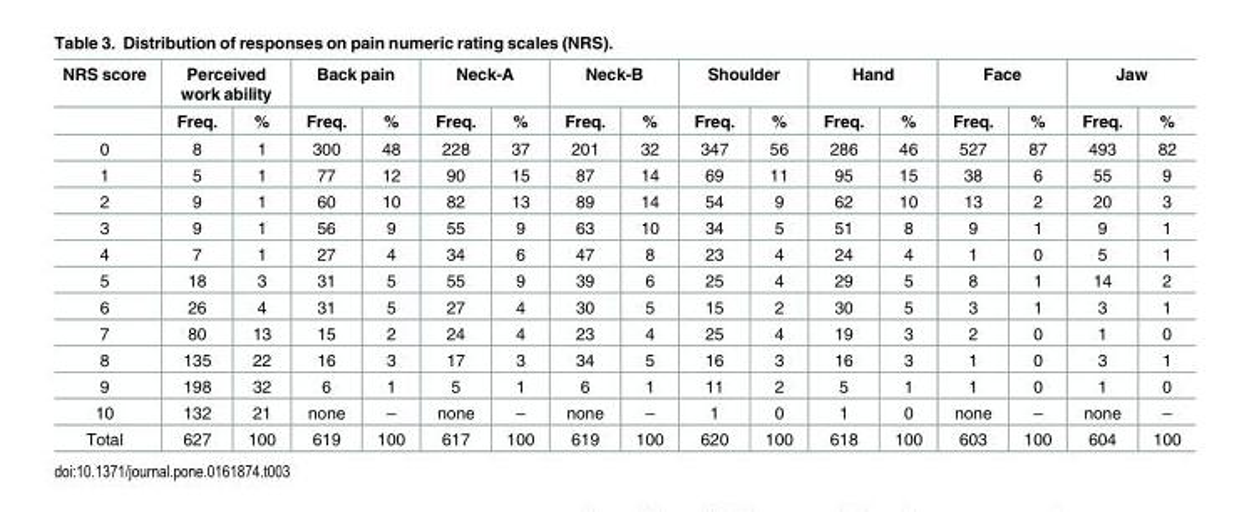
<table><thead><tr><td rowspan="2">NRS score</td><td colspan="2">Perceived work ability</td><td colspan="2">Back pain</td><td colspan="2">Neck-A</td><td colspan="2">Neck-B</td><td colspan="2">Shoulder</td><td colspan="2">Hand</td><td colspan="2">Face</td><td colspan="2">Jaw</td></tr><tr><td>Freq.</td><td>%</td><td>Freq.</td><td>%</td><td>Freq.</td><td>%</td><td>Freq.</td><td>%</td><td>Freq.</td><td>%</td><td>Freq.</td><td>%</td><td>Freq.</td><td>%</td><td>Freq.</td><td>%</td></tr></thead><tbody><tr><td>0</td><td>8</td><td>1</td><td>300</td><td>48</td><td>228</td><td>37</td><td>201</td><td>32</td><td>347</td><td>56</td><td>286</td><td>46</td><td>527</td><td>87</td><td>493</td><td>82</td></tr><tr><td>1</td><td>5</td><td>1</td><td>77</td><td>12</td><td>90</td><td>15</td><td>87</td><td>14</td><td>69</td><td>11</td><td>95</td><td>15</td><td>38</td><td>6</td><td>55</td><td>9</td></tr><tr><td>2</td><td>9</td><td>1</td><td>60</td><td>10</td><td>82</td><td>13</td><td>89</td><td>14</td><td>54</td><td>9</td><td>62</td><td>10</td><td>13</td><td>2</td><td>20</td><td>3</td></tr><tr><td>3</td><td>9</td><td>1</td><td>56</td><td>9</td><td>55</td><td>9</td><td>63</td><td>10</td><td>34</td><td>5</td><td>51</td><td>8</td><td>9</td><td>1</td><td>9</td><td>1</td></tr><tr><td>4</td><td>7</td><td>1</td><td>27</td><td>4</td><td>34</td><td>6</td><td>47</td><td>8</td><td>23</td><td>4</td><td>24</td><td>4</td><td>1</td><td>0</td><td>5</td><td>1</td></tr><tr><td>5</td><td>18</td><td>3</td><td>31</td><td>5</td><td>55</td><td>9</td><td>39</td><td>6</td><td>25</td><td>4</td><td>29</td><td>5</td><td>8</td><td>1</td><td>14</td><td>2</td></tr><tr><td>6</td><td>26</td><td>4</td><td>31</td><td>5</td><td>27</td><td>4</td><td>30</td><td>5</td><td>15</td><td>2</td><td>30</td><td>5</td><td>3</td><td>1</td><td>3</td><td>1</td></tr><tr><td>7</td><td>80</td><td>13</td><td>15</td><td>2</td><td>24</td><td>4</td><td>23</td><td>4</td><td>25</td><td>4</td><td>19</td><td>3</td><td>2</td><td>0</td><td>1</td><td>0</td></tr><tr><td>8</td><td>135</td><td>22</td><td>16</td><td>3</td><td>17</td><td>3</td><td>34</td><td>5</td><td>16</td><td>3</td><td>16</td><td>3</td><td>1</td><td>0</td><td>3</td><td>1</td></tr><tr><td>9</td><td>198</td><td>32</td><td>6</td><td>1</td><td>5</td><td>1</td><td>6</td><td>1</td><td>11</td><td>2</td><td>5</td><td>1</td><td>1</td><td>0</td><td>1</td><td>0</td></tr><tr><td>10</td><td>132</td><td>21</td><td>none</td><td>–</td><td>none</td><td>–</td><td>none</td><td>–</td><td>1</td><td>0</td><td>1</td><td>0</td><td>none</td><td>–</td><td>none</td><td>–</td></tr><tr><td>Total</td><td>627</td><td>100</td><td>619</td><td>100</td><td>617</td><td>100</td><td>619</td><td>100</td><td>620</td><td>100</td><td>618</td><td>100</td><td>603</td><td>100</td><td>604</td><td>100</td></tr></tbody></table>